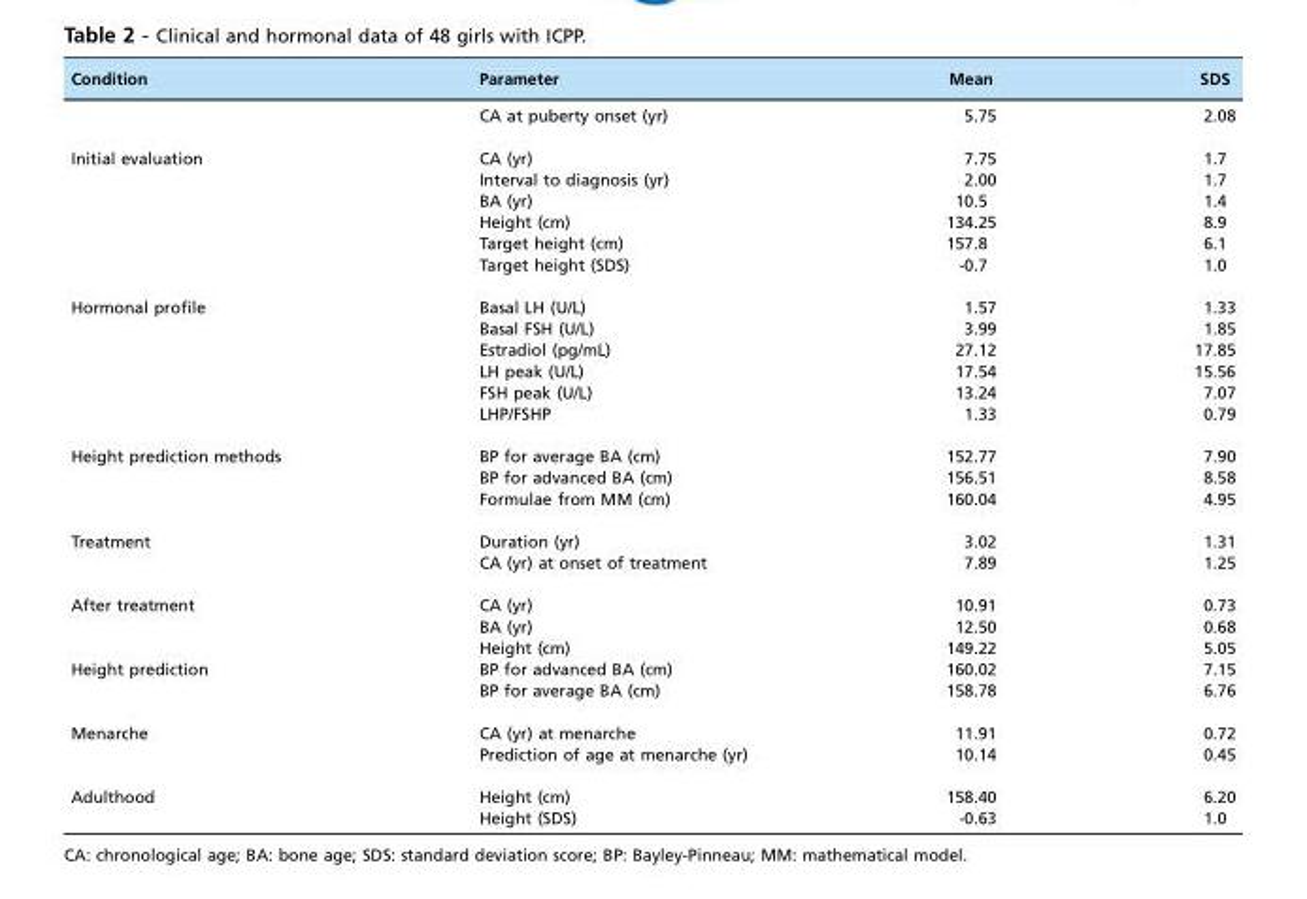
<table><thead><tr><td>Condition</td><td>Parameter</td><td>Mean</td><td>SDS</td></tr></thead><tbody><tr><td></td><td>CA at puberty onset (yr)</td><td>5.75</td><td>2.08</td></tr><tr><td rowspan="6">Initial evaluation</td><td>CA (yr)</td><td>7.75</td><td>1.7</td></tr><tr><td>Interval to diagnosis (yr)</td><td>2.00</td><td>1.7</td></tr><tr><td>BA (yr)</td><td>10.5</td><td>1.4</td></tr><tr><td>Height (cm)</td><td>134.25</td><td>8.9</td></tr><tr><td>Target height (cm)</td><td>157.8</td><td>6.1</td></tr><tr><td>Target height (SDS)</td><td>-0.7</td><td>1.0</td></tr><tr><td rowspan="6">Hormonal profile</td><td>Basal LH (U/L)</td><td>1.57</td><td>1.33</td></tr><tr><td>Basal FSH (U/L)</td><td>3.99</td><td>1.85</td></tr><tr><td>Estradiol (pg/mL)</td><td>27.12</td><td>17.85</td></tr><tr><td>LH peak (U/L)</td><td>17.54</td><td>15.56</td></tr><tr><td>FSH peak (U/L)</td><td>13.24</td><td>7.07</td></tr><tr><td>LHP/FSHP</td><td>1.33</td><td>0.79</td></tr><tr><td rowspan="3">Height prediction methods</td><td>BP for average BA (cm)</td><td>152.77</td><td>7.90</td></tr><tr><td>BP for advanced BA (cm)</td><td>156.51</td><td>8.58</td></tr><tr><td>Formulae from MM (cm)</td><td>160.04</td><td>4.95</td></tr><tr><td rowspan="2">Treatment</td><td>Duration (yr)</td><td>3.02</td><td>1.31</td></tr><tr><td>CA (yr) at onset of treatment</td><td>7.89</td><td>1.25</td></tr><tr><td rowspan="3">After treatment</td><td>CA (yr)</td><td>10.91</td><td>0.73</td></tr><tr><td>BA (yr)</td><td>12.50</td><td>0.68</td></tr><tr><td>Height (cm)</td><td>149.22</td><td>5.05</td></tr><tr><td rowspan="2">Height prediction</td><td>BP for advanced BA (cm)</td><td>160.02</td><td>7.15</td></tr><tr><td>BP for average BA (cm)</td><td>158.78</td><td>6.76</td></tr><tr><td rowspan="2">Menarche</td><td>CA (yr) at menarche</td><td>11.91</td><td>0.72</td></tr><tr><td>Prediction of age at menarche (yr)</td><td>10.14</td><td>0.45</td></tr><tr><td rowspan="2">Adulthood</td><td>Height (cm)</td><td>158.40</td><td>6.20</td></tr><tr><td>Height (SDS)</td><td>-0.63</td><td>1.0</td></tr></tbody></table>